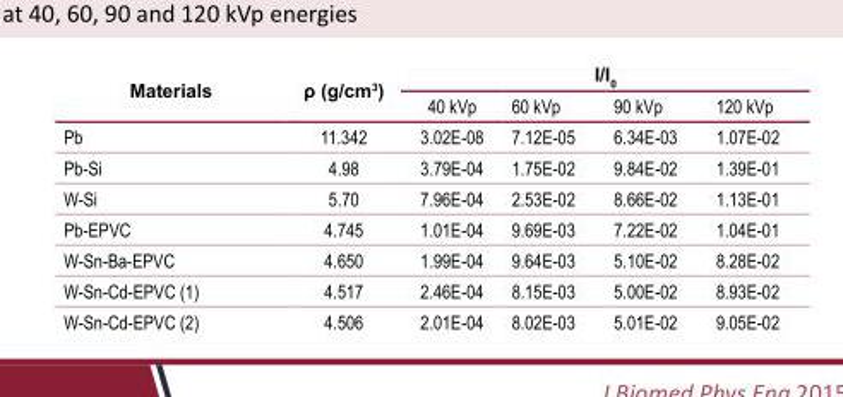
<table><thead><tr><td rowspan="2">Materials</td><td rowspan="2">ρ (g/cm<sup>3</sup>)</td><td colspan="4">I/I<sub>0</sub></td></tr><tr><td>40 kVp</td><td>60 kVp</td><td>90 kVp</td><td>120 kVp</td></tr></thead><tbody><tr><td>Pb</td><td>11.342</td><td>3.02E-08</td><td>7.12E-05</td><td>6.34E-03</td><td>1.07E-02</td></tr><tr><td>Pb-Si</td><td>4.98</td><td>3.79E-04</td><td>1.75E-02</td><td>9.84E-02</td><td>1.39E-01</td></tr><tr><td>W-Si</td><td>5.70</td><td>7.96E-04</td><td>2.53E-02</td><td>8.66E-02</td><td>1.13E-01</td></tr><tr><td>Pb-EPVC</td><td>4.745</td><td>1.01E-04</td><td>9.69E-03</td><td>7.22E-02</td><td>1.04E-01</td></tr><tr><td>W-Sn-Ba-EPVC</td><td>4.650</td><td>1.99E-04</td><td>9.64E-03</td><td>5.10E-02</td><td>8.28E-02</td></tr><tr><td>W-Sn-Cd-EPVC (1)</td><td>4.517</td><td>2.46E-04</td><td>8.15E-03</td><td>5.00E-02</td><td>8.93E-02</td></tr><tr><td>W-Sn-Cd-EPVC (2)</td><td>4.506</td><td>2.01E-04</td><td>8.02E-03</td><td>5.01E-02</td><td>9.05E-02</td></tr></tbody></table>